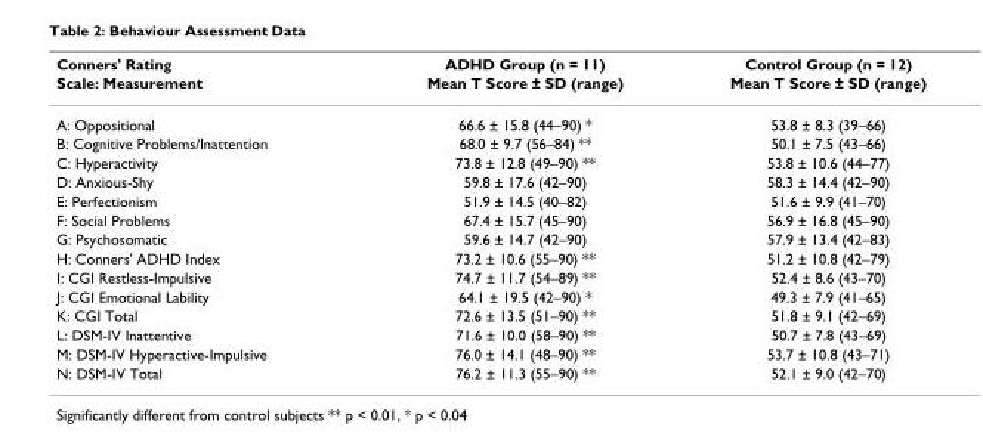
<table><thead><tr><td rowspan="2">Conners&#x27; Rating Scale: Measurement</td><td rowspan="2">ADHD Group (n = 11) Mean T Score ± SD (range)</td><td rowspan="2">Control Group (n = 12) Mean T Score ± SD (range)</td></tr><tr></tr></thead><tbody><tr><td>A: Oppositional</td><td>66.6 ± 15.8 (44–90) *</td><td>53.8 ± 8.3 (39–66)</td></tr><tr><td>B: Cognitive Problems/Inattention</td><td>68.0 ± 9.7 (56–84) **</td><td>50.1 ± 7.5 (43–66)</td></tr><tr><td>C: Hyperactivity</td><td>73.8 ± 12.8 (49–90) **</td><td>53.8 ± 10.6 (44–77)</td></tr><tr><td>D: Anxious-Shy</td><td>59.8 ± 17.6 (42–90)</td><td>58.3 ± 14.4 (42–90)</td></tr><tr><td>E: Perfectionism</td><td>51.9 ± 14.5 (40–82)</td><td>51.6 ± 9.9 (41–70)</td></tr><tr><td>F: Social Problems</td><td>67.4 ± 15.7 (45–90)</td><td>56.9 ± 16.8 (45–90)</td></tr><tr><td>G: Psychosomatic</td><td>59.6 ± 14.7 (42–90)</td><td>57.9 ± 13.4 (42–83)</td></tr><tr><td>H: Conners&#x27; ADHD Index</td><td>73.2 ± 10.6 (55–90) **</td><td>51.2 ± 10.8 (42–79)</td></tr><tr><td>I: CGI Restless-Impulsive</td><td>74.7 ± 11.7 (54–89) **</td><td>52.4 ± 8.6 (43–70)</td></tr><tr><td>J: CGI Emotional Lability</td><td>64.1 ± 19.5 (42–90) *</td><td>49.3 ± 7.9 (41–65)</td></tr><tr><td>K: CGI Total</td><td>72.6 ± 13.5 (51–90) **</td><td>51.8 ± 9.1 (42–69)</td></tr><tr><td>L: DSM-IV Inattentive</td><td>71.6 ± 10.0 (58–90) **</td><td>50.7 ± 7.8 (43–69)</td></tr><tr><td>M: DSM-IV Hyperactive-Impulsive</td><td>76.0 ± 14.1 (48–90) **</td><td>53.7 ± 10.8 (43–71)</td></tr><tr><td>N: DSM-IV Total</td><td>76.2 ± 11.3 (55–90) **</td><td>52.1 ± 9.0 (42–70)</td></tr></tbody></table>